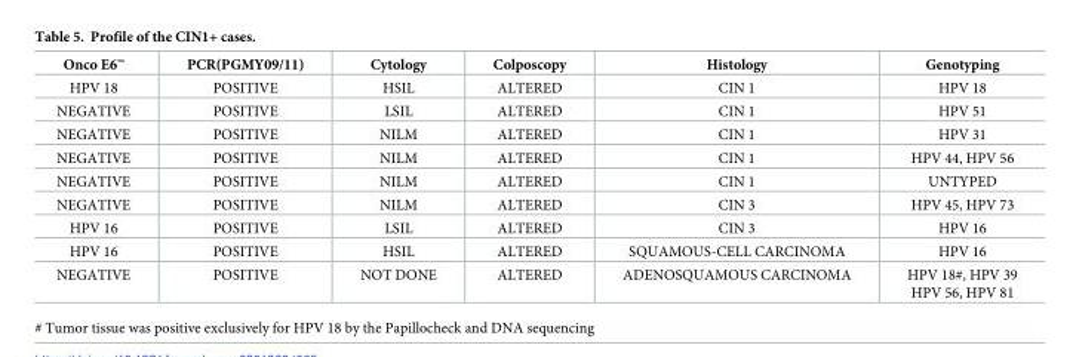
<table><thead><tr><td>Onco E6™</td><td>PCR(PGMY09/11)</td><td>Cytology</td><td>Colposcopy</td><td>Histology</td><td>Genotyping</td></tr></thead><tbody><tr><td>HPV 18</td><td>POSITIVE</td><td>HSIL</td><td>ALTERED</td><td>CIN 1</td><td>HPV 18</td></tr><tr><td>NEGATIVE</td><td>POSITIVE</td><td>LSIL</td><td>ALTERED</td><td>CIN 1</td><td>HPV 51</td></tr><tr><td>NEGATIVE</td><td>POSITIVE</td><td>NILM</td><td>ALTERED</td><td>CIN 1</td><td>HPV 31</td></tr><tr><td>NEGATIVE</td><td>POSITIVE</td><td>NILM</td><td>ALTERED</td><td>CIN 1</td><td>HPV 44, HPV 56</td></tr><tr><td>NEGATIVE</td><td>POSITIVE</td><td>NILM</td><td>ALTERED</td><td>CIN 1</td><td>UNTYPED</td></tr><tr><td>NEGATIVE</td><td>POSITIVE</td><td>NILM</td><td>ALTERED</td><td>CIN 3</td><td>HPV 45, HPV 73</td></tr><tr><td>HPV 16</td><td>POSITIVE</td><td>LSIL</td><td>ALTERED</td><td>CIN 3</td><td>HPV 16</td></tr><tr><td>HPV 16</td><td>POSITIVE</td><td>HSIL</td><td>ALTERED</td><td>SQUAMOUS-CELL CARCINOMA</td><td>HPV 16</td></tr><tr><td>NEGATIVE</td><td>POSITIVE</td><td>NOT DONE</td><td>ALTERED</td><td>ADENOSQUAMOUS CARCINOMA</td><td>HPV 18#, HPV 39 HPV 56, HPV 81</td></tr></tbody></table>